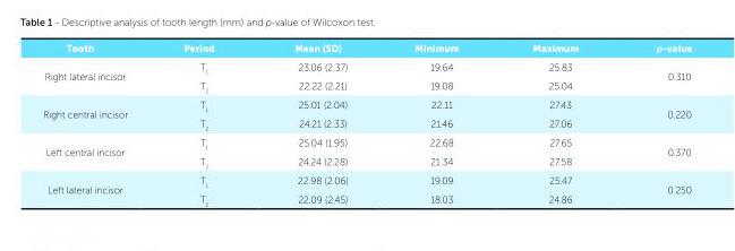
<table><tbody><tr><td>Tooth</td><td>Period</td><td>Mean (SD)</td><td>Minimum</td><td>Maximum</td><td>p-value</td></tr><tr><td rowspan="2">Right lateral incisor</td><td>T<sub>1</sub></td><td>23.06 (2.37)</td><td>19.64</td><td>25.83</td><td rowspan="2">0.310</td></tr><tr><td>T<sub>2</sub></td><td>22.22 (2.21)</td><td>19.08</td><td>25.04</td></tr><tr><td rowspan="2">Right central incisor</td><td>T<sub>1</sub></td><td>25.01 (2.04)</td><td>22.11</td><td>27.43</td><td rowspan="2">0.220</td></tr><tr><td>T<sub>2</sub></td><td>24.21 (2.33)</td><td>21.46</td><td>27.06</td></tr><tr><td rowspan="2">Left central incisor</td><td>T<sub>1</sub></td><td>25.04 (1.95)</td><td>22.68</td><td>27.65</td><td rowspan="2">0.370</td></tr><tr><td>T<sub>2</sub></td><td>24.24 (2.28)</td><td>21.34</td><td>27.58</td></tr><tr><td rowspan="2">Left lateral incisor</td><td>T<sub>1</sub></td><td>22.98 (2.06)</td><td>19.09</td><td>25.47</td><td rowspan="2">0.250</td></tr><tr><td>T<sub>2</sub></td><td>22.09 (2.45)</td><td>18.03</td><td>24.86</td></tr></tbody></table>